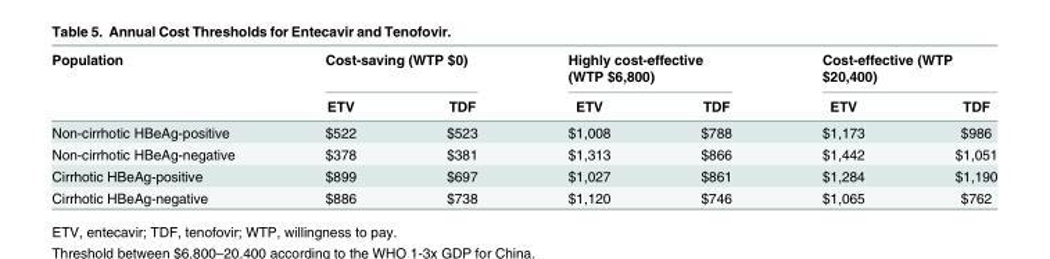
<table><thead><tr><td rowspan="2">Population</td><td colspan="2">Cost-saving (WTP $0)</td><td colspan="2">Highly cost-effective (WTP $6,800)</td><td colspan="2">Cost-effective (WTP $20,400)</td></tr><tr><td>ETV</td><td>TDF</td><td>ETV</td><td>TDF</td><td>ETV</td><td>TDF</td></tr></thead><tbody><tr><td>Non-cirrhotic HBeAg-positive</td><td>$522</td><td>$523</td><td>$1,008</td><td>$788</td><td>$1,173</td><td>$986</td></tr><tr><td>Non-cirrhotic HBeAg-negative</td><td>$378</td><td>$381</td><td>$1,313</td><td>$866</td><td>$1,442</td><td>$1,051</td></tr><tr><td>Cirrhotic HBeAg-positive</td><td>$899</td><td>$697</td><td>$1,027</td><td>$861</td><td>$1,284</td><td>$1,190</td></tr><tr><td>Cirrhotic HBeAg-negative</td><td>$886</td><td>$738</td><td>$1,120</td><td>$746</td><td>$1,065</td><td>$762</td></tr></tbody></table>